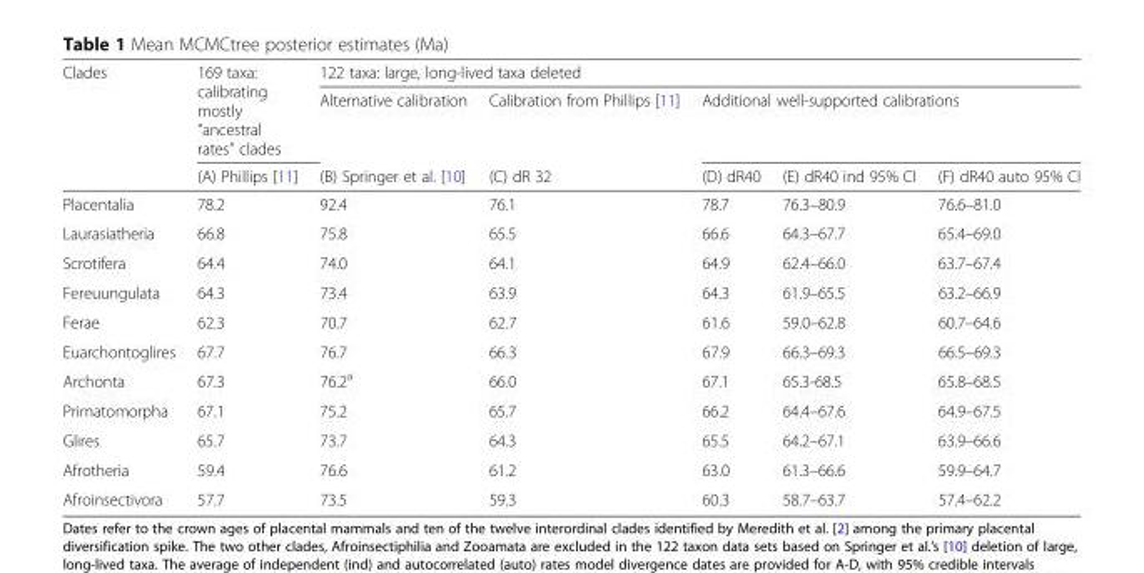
<table><thead><tr><td rowspan="3">Clades</td><td rowspan="3">169 taxa: calibrating mostly “ancestral rates” clades (A) Phillips [11]</td><td colspan="5">122 taxa: large, long-lived taxa deleted</td></tr><tr><td rowspan="2">Alternative calibration (B) Springer et al. [10]</td><td rowspan="2">Calibration from Phillips [11] (C) dR 32</td><td colspan="3">Additional well-supported calibrations</td></tr><tr><td>(D) dR40</td><td>(E) dR40 ind 95% CI</td><td>(F) dR40 auto 95% CI</td></tr></thead><tbody><tr><td>Placentalia</td><td>78.2</td><td>92.4</td><td>76.1</td><td>78.7</td><td>76.3–80.9</td><td>76.6–81.0</td></tr><tr><td>Laurasiatheria</td><td>66.8</td><td>75.8</td><td>65.5</td><td>66.6</td><td>64.3–67.7</td><td>65.4–69.0</td></tr><tr><td>Scrotifera</td><td>64.4</td><td>74.0</td><td>64.1</td><td>64.9</td><td>62.4–66.0</td><td>63.7–67.4</td></tr><tr><td>Fereuungulata</td><td>64.3</td><td>73.4</td><td>63.9</td><td>64.3</td><td>61.9–65.5</td><td>63.2–66.9</td></tr><tr><td>Ferae</td><td>62.3</td><td>70.7</td><td>62.7</td><td>61.6</td><td>59.0–62.8</td><td>60.7–64.6</td></tr><tr><td>Euarchontoglires</td><td>67.7</td><td>76.7</td><td>66.3</td><td>67.9</td><td>66.3–69.3</td><td>66.5–69.3</td></tr><tr><td>Archonta</td><td>67.3</td><td>76.2<sup>a</sup></td><td>66.0</td><td>67.1</td><td>65.3-68.5</td><td>65.8–68.5</td></tr><tr><td>Primatomorpha</td><td>67.1</td><td>75.2</td><td>65.7</td><td>66.2</td><td>64.4–67.6</td><td>64.9–67.5</td></tr><tr><td>Glires</td><td>65.7</td><td>73.7</td><td>64.3</td><td>65.5</td><td>64.2–67.1</td><td>63.9–66.6</td></tr><tr><td>Afrotheria</td><td>59.4</td><td>76.6</td><td>61.2</td><td>63.0</td><td>61.3–66.6</td><td>59.9–64.7</td></tr><tr><td>Afroinsectivora</td><td>57.7</td><td>73.5</td><td>59.3</td><td>60.3</td><td>58.7–63.7</td><td>57.4–62.2</td></tr></tbody></table>